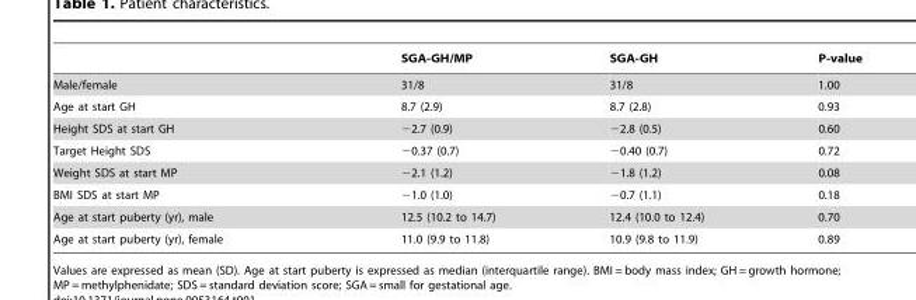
<table><thead><tr><td></td><td>SGA-GH/MP</td><td>SGA-GH</td><td>P-value</td></tr></thead><tbody><tr><td>Male/female</td><td>31/8</td><td>31/8</td><td>1.00</td></tr><tr><td>Age at start GH</td><td>8.7 (2.9)</td><td>8.7 (2.8)</td><td>0.93</td></tr><tr><td>Height SDS at start GH</td><td>−2.7 (0.9)</td><td>−2.8 (0.5)</td><td>0.60</td></tr><tr><td>Target Height SDS</td><td>−0.37 (0.7)</td><td>−0.40 (0.7)</td><td>0.72</td></tr><tr><td>Weight SDS at start MP</td><td>−2.1 (1.2)</td><td>−1.8 (1.2)</td><td>0.08</td></tr><tr><td>BMI SDS at start MP</td><td>−1.0 (1.0)</td><td>−0.7 (1.1)</td><td>0.18</td></tr><tr><td>Age at start puberty (yr), male</td><td>12.5 (10.2 to 14.7)</td><td>12.4 (10.0 to 12.4)</td><td>0.70</td></tr><tr><td>Age at start puberty (yr), female</td><td>11.0 (9.9 to 11.8)</td><td>10.9 (9.8 to 11.9)</td><td>0.89</td></tr></tbody></table>